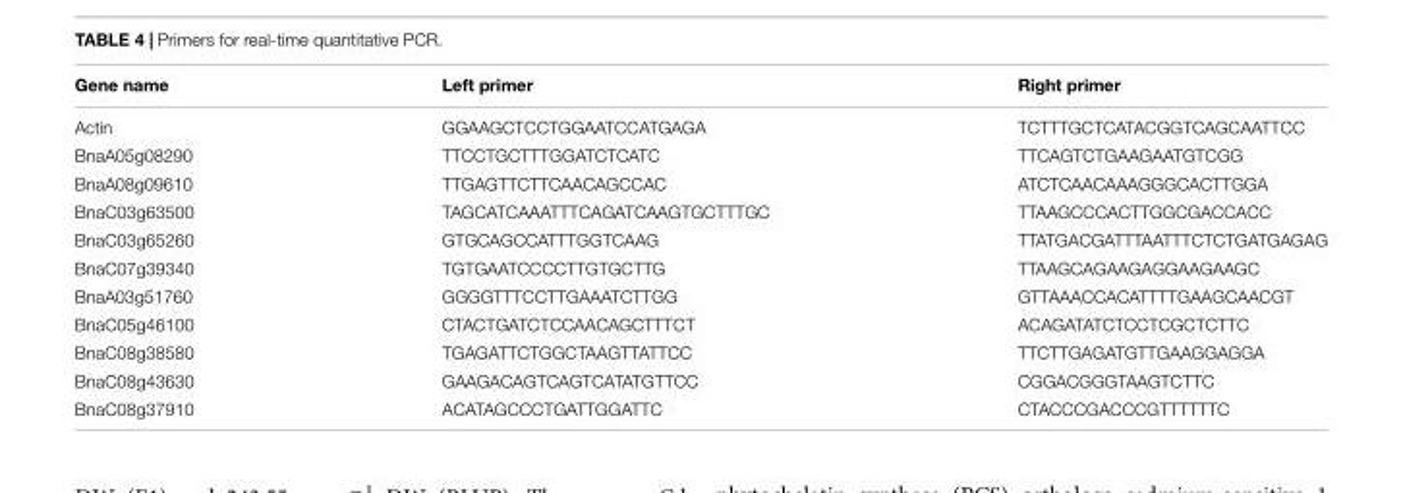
<table><thead><tr><td>Gene name</td><td>Left primer</td><td>Right primer</td></tr></thead><tbody><tr><td>Actin</td><td>GGAAGCTCCTGGAATCCATGAGA</td><td>TCTTTGCTCATACGGTCAGCAATTCC</td></tr><tr><td>BnaA05g08290</td><td>TTCCTGCTTTGGATCTCATC</td><td>TTCAGTCTGAAGAATGTCGG</td></tr><tr><td>BnaA08g09610</td><td>TTGAGTTCTTCAACAGCCAC</td><td>ATCTCAACAAAGGGCACTTGGA</td></tr><tr><td>BnaC03g63500</td><td>TAGCATCAAATTTCAGATCAAGTGCTTTGC</td><td>TTAAGCCCACTTGGCGACCACC</td></tr><tr><td>BnaC03g65260</td><td>GTGCAGCCATTTGGTCAAG</td><td>TTATGACGATTTAATTTCTCTGATGAGAG</td></tr><tr><td>BnaC07g39340</td><td>TGTGAATCCCCTTGTGCTTG</td><td>TTAAGCAGAAGAGGAAGAAGC</td></tr><tr><td>BnaA03g51760</td><td>GGGGTTTCCTTGAAATCTTGG</td><td>GTTAAACCACATTTTGAAGCAACGT</td></tr><tr><td>BnaC05g46100</td><td>CTACTGATCTCCAACAGCTTTCT</td><td>ACAGATATCTCCTCGCTCTTC</td></tr><tr><td>BnaC08g38580</td><td>TGAGATTCTGGCTAAGTTATTCC</td><td>TTCTTGAGATGTTGAAGGAGGA</td></tr><tr><td>BnaC08g43630</td><td>GAAGACAGTCAGTCATATGTTCC</td><td>CGGACGGGTAAGTCTTC</td></tr><tr><td>BnaC08g37910</td><td>ACATAGCCCTGATTGGATTC</td><td>CTACCCGACCCGTTTTTTC</td></tr></tbody></table>